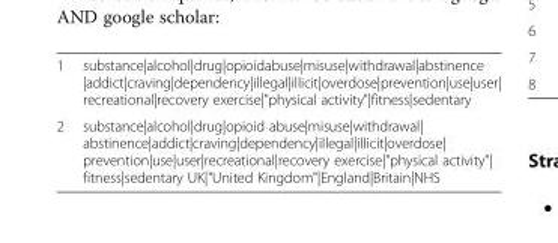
<table><tbody><tr><td>1</td><td>substance|alcohol|drug|opioidabuse|misuse|withdrawal|abstinence |addict|craving|dependency|illegal|illicit|overdose|prevention|use|user| recreational|recovery exercise|&quot;physical activity&quot;|fitness|sedentary</td></tr><tr><td>2</td><td>substance|alcohol|drug|opioid abuse|misuse|withdrawal| abstinence|addict|craving|dependency|illegal|illicit|overdose| prevention|use|user|recreational|recovery exercise|&quot;physical activity&quot;| fitness|sedentary UK|&quot;United Kingdom&quot;|England|Britain|NHS</td></tr></tbody></table>